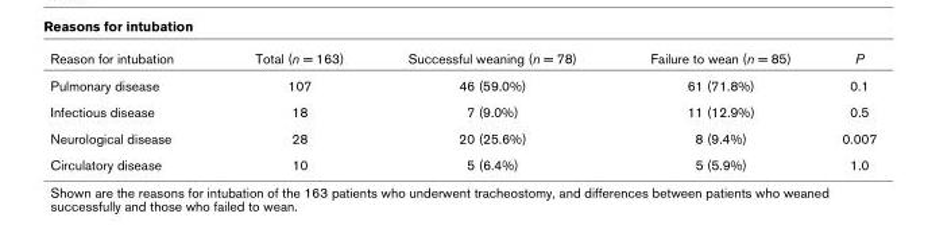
<table><thead><tr><td>Reason for intubation</td><td>Total (n = 163)</td><td>Successful weaning (n = 78)</td><td>Failure to wean (n = 85)</td><td>P</td></tr></thead><tbody><tr><td>Pulmonary disease</td><td>107</td><td>46 (59.0%)</td><td>61 (71.8%)</td><td>0.1</td></tr><tr><td>Infectious disease</td><td>18</td><td>7 (9.0%)</td><td>11 (12.9%)</td><td>0.5</td></tr><tr><td>Neurological disease</td><td>28</td><td>20 (25.6%)</td><td>8 (9.4%)</td><td>0.007</td></tr><tr><td>Circulatory disease</td><td>10</td><td>5 (6.4%)</td><td>5 (5.9%)</td><td>1.0</td></tr></tbody></table>